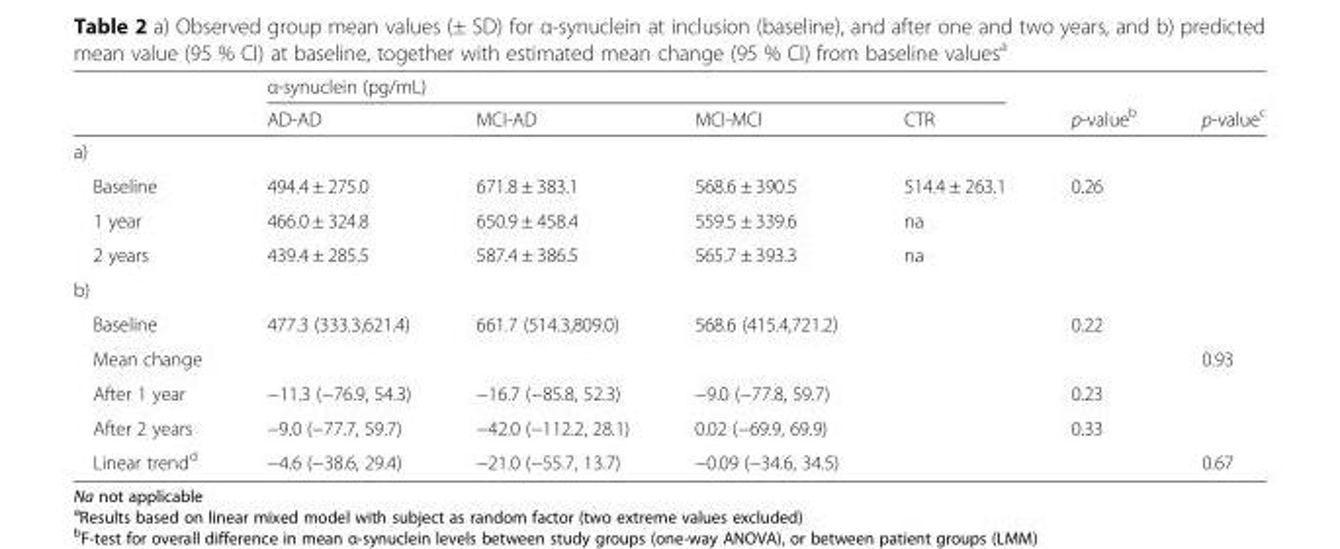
<table><thead><tr><td rowspan="2"></td><td colspan="4">α-synuclein (pg/mL)</td><td rowspan="2">p-value<sup>b</sup></td><td rowspan="2">p-value<sup>c</sup></td></tr><tr><td>AD-AD</td><td>MCI-AD</td><td>MCI-MCI</td><td>CTR</td></tr></thead><tbody><tr><td colspan="7">a)</td></tr><tr><td>Baseline</td><td>494.4 ± 275.0</td><td>671.8 ± 383.1</td><td>568.6 ± 390.5</td><td>514.4 ± 263.1</td><td>0.26</td><td></td></tr><tr><td>1 year</td><td>466.0 ± 324.8</td><td>650.9 ± 458.4</td><td>559.5 ± 339.6</td><td>na</td><td></td><td></td></tr><tr><td>2 years</td><td>439.4 ± 285.5</td><td>587.4 ± 386.5</td><td>565.7 ± 393.3</td><td>na</td><td></td><td></td></tr><tr><td colspan="7">b)</td></tr><tr><td>Baseline</td><td>477.3 (333.3,621.4)</td><td>661.7 (514.3,809.0)</td><td>568.6 (415.4,721.2)</td><td></td><td>0.22</td><td></td></tr><tr><td>Mean change</td><td></td><td></td><td></td><td></td><td></td><td>0.93</td></tr><tr><td>After 1 year</td><td>−11.3 (−76.9, 54.3)</td><td>−16.7 (−85.8, 52.3)</td><td>−9.0 (−77.8, 59.7)</td><td></td><td>0.23</td><td></td></tr><tr><td>After 2 years</td><td>−9.0 (−77.7, 59.7)</td><td>−42.0 (−112.2, 28.1)</td><td>0.02 (−69.9, 69.9)</td><td></td><td>0.33</td><td></td></tr><tr><td>Linear trend<sup>d</sup></td><td>−4.6 (−38.6, 29.4)</td><td>−21.0 (−55.7, 13.7)</td><td>−0.09 (−34.6, 34.5)</td><td></td><td></td><td>0.67</td></tr></tbody></table>